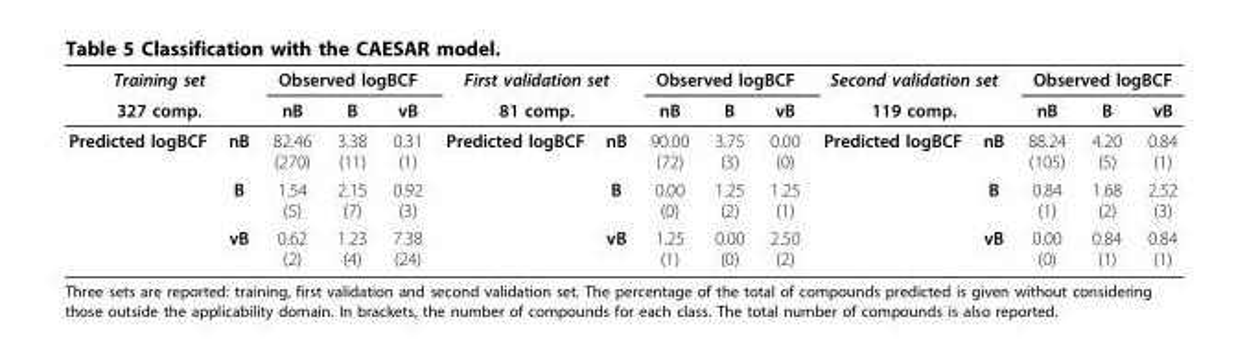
<table><thead><tr><td rowspan="2" colspan="2">Training set 327 comp.</td><td colspan="3">Observed logBCF</td><td rowspan="2" colspan="2">First validation set 81 comp.</td><td colspan="3">Observed logBCF</td><td rowspan="2" colspan="2">Second validation set 119 comp.</td><td colspan="3">Observed logBCF</td></tr><tr><td rowspan="2">nB 82.46 (270)</td><td rowspan="2">B 3.38 (11)</td><td rowspan="2">vB 0.31 (1)</td><td rowspan="2">nB 90.00 (72)</td><td rowspan="2">B 3.75 (3)</td><td rowspan="2">vB 0.00 (0)</td><td rowspan="2">nB 88.24 (105)</td><td rowspan="2">B 4.20 (5)</td><td rowspan="2">vB 0.84 (1)</td></tr><tr><td>Predicted logBCF</td><td>nB</td><td>Predicted logBCF</td><td>nB</td><td>Predicted logBCF</td><td>nB</td></tr></thead><tbody><tr><td></td><td>B</td><td>1.54 (5)</td><td>2.15 (7)</td><td>0.92 (3)</td><td></td><td>B</td><td>0.00 (0)</td><td>1.25 (2)</td><td>1.25 (1)</td><td></td><td>B</td><td>0.84 (1)</td><td>1.68 (2)</td><td>2.52 (3)</td></tr><tr><td></td><td>vB</td><td>0.62 (2)</td><td>1.23 (4)</td><td>7.38 (24)</td><td></td><td>vB</td><td>1.25 (1)</td><td>0.00 (0)</td><td>2.50 (2)</td><td></td><td>vB</td><td>0.00 (0)</td><td>0.84 (1)</td><td>0.84 (1)</td></tr></tbody></table>